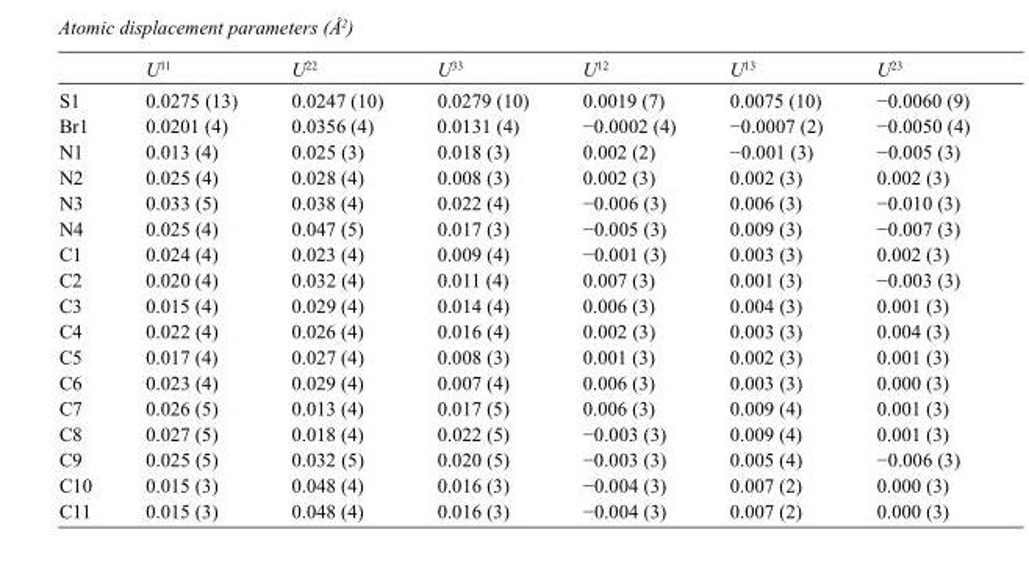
<table><thead><tr><td></td><td>U<sup>11</sup></td><td>U<sup>22</sup></td><td>U<sup>33</sup></td><td>U<sup>12</sup></td><td>U<sup>13</sup></td><td>U<sup>23</sup></td></tr></thead><tbody><tr><td>S1</td><td>0.0275 (13)</td><td>0.0247 (10)</td><td>0.0279 (10)</td><td>0.0019 (7)</td><td>0.0075 (10)</td><td>−0.0060 (9)</td></tr><tr><td>Br1</td><td>0.0201 (4)</td><td>0.0356 (4)</td><td>0.0131 (4)</td><td>−0.0002 (4)</td><td>−0.0007 (2)</td><td>−0.0050 (4)</td></tr><tr><td>N1</td><td>0.013 (4)</td><td>0.025 (3)</td><td>0.018 (3)</td><td>0.002 (2)</td><td>−0.001 (3)</td><td>−0.005 (3)</td></tr><tr><td>N2</td><td>0.025 (4)</td><td>0.028 (4)</td><td>0.008 (3)</td><td>0.002 (3)</td><td>0.002 (3)</td><td>0.002 (3)</td></tr><tr><td>N3</td><td>0.033 (5)</td><td>0.038 (4)</td><td>0.022 (4)</td><td>−0.006 (3)</td><td>0.006 (3)</td><td>−0.010 (3)</td></tr><tr><td>N4</td><td>0.025 (4)</td><td>0.047 (5)</td><td>0.017 (3)</td><td>−0.005 (3)</td><td>0.009 (3)</td><td>−0.007 (3)</td></tr><tr><td>C1</td><td>0.024 (4)</td><td>0.023 (4)</td><td>0.009 (4)</td><td>−0.001 (3)</td><td>0.003 (3)</td><td>0.002 (3)</td></tr><tr><td>C2</td><td>0.020 (4)</td><td>0.032 (4)</td><td>0.011 (4)</td><td>0.007 (3)</td><td>0.001 (3)</td><td>−0.003 (3)</td></tr><tr><td>C3</td><td>0.015 (4)</td><td>0.029 (4)</td><td>0.014 (4)</td><td>0.006 (3)</td><td>0.004 (3)</td><td>0.001 (3)</td></tr><tr><td>C4</td><td>0.022 (4)</td><td>0.026 (4)</td><td>0.016 (4)</td><td>0.002 (3)</td><td>0.003 (3)</td><td>0.004 (3)</td></tr><tr><td>C5</td><td>0.017 (4)</td><td>0.027 (4)</td><td>0.008 (3)</td><td>0.001 (3)</td><td>0.002 (3)</td><td>0.001 (3)</td></tr><tr><td>C6</td><td>0.023 (4)</td><td>0.029 (4)</td><td>0.007 (4)</td><td>0.006 (3)</td><td>0.003 (3)</td><td>0.000 (3)</td></tr><tr><td>C7</td><td>0.026 (5)</td><td>0.013 (4)</td><td>0.017 (5)</td><td>0.006 (3)</td><td>0.009 (4)</td><td>0.001 (3)</td></tr><tr><td>C8</td><td>0.027 (5)</td><td>0.018 (4)</td><td>0.022 (5)</td><td>−0.003 (3)</td><td>0.009 (4)</td><td>0.001 (3)</td></tr><tr><td>C9</td><td>0.025 (5)</td><td>0.032 (5)</td><td>0.020 (5)</td><td>−0.003 (3)</td><td>0.005 (4)</td><td>−0.006 (3)</td></tr><tr><td>C10</td><td>0.015 (3)</td><td>0.048 (4)</td><td>0.016 (3)</td><td>−0.004 (3)</td><td>0.007 (2)</td><td>0.000 (3)</td></tr><tr><td>C11</td><td>0.015 (3)</td><td>0.048 (4)</td><td>0.016 (3)</td><td>−0.004 (3)</td><td>0.007 (2)</td><td>0.000 (3)</td></tr></tbody></table>